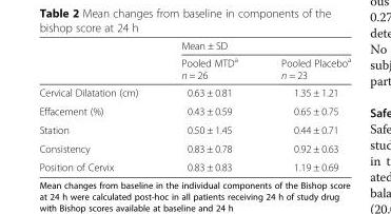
<table><thead><tr><td rowspan="2"></td><td colspan="2">Mean ± SD</td></tr><tr><td>Pooled MTD<sup>a</sup> n = 26</td><td>Pooled Placebo<sup>a</sup> n = 23</td></tr></thead><tbody><tr><td>Cervical Dilatation (cm)</td><td>0.63 ± 0.81</td><td>1.35 ± 1.21</td></tr><tr><td>Effacement (%)</td><td>0.43 ± 0.59</td><td>0.65 ± 0.75</td></tr><tr><td>Station</td><td>0.50 ± 1.45</td><td>0.44 ± 0.71</td></tr><tr><td>Consistency</td><td>0.83 ± 0.78</td><td>0.92 ± 0.63</td></tr><tr><td>Position of Cervix</td><td>0.83 ± 0.83</td><td>1.19 ± 0.69</td></tr></tbody></table>